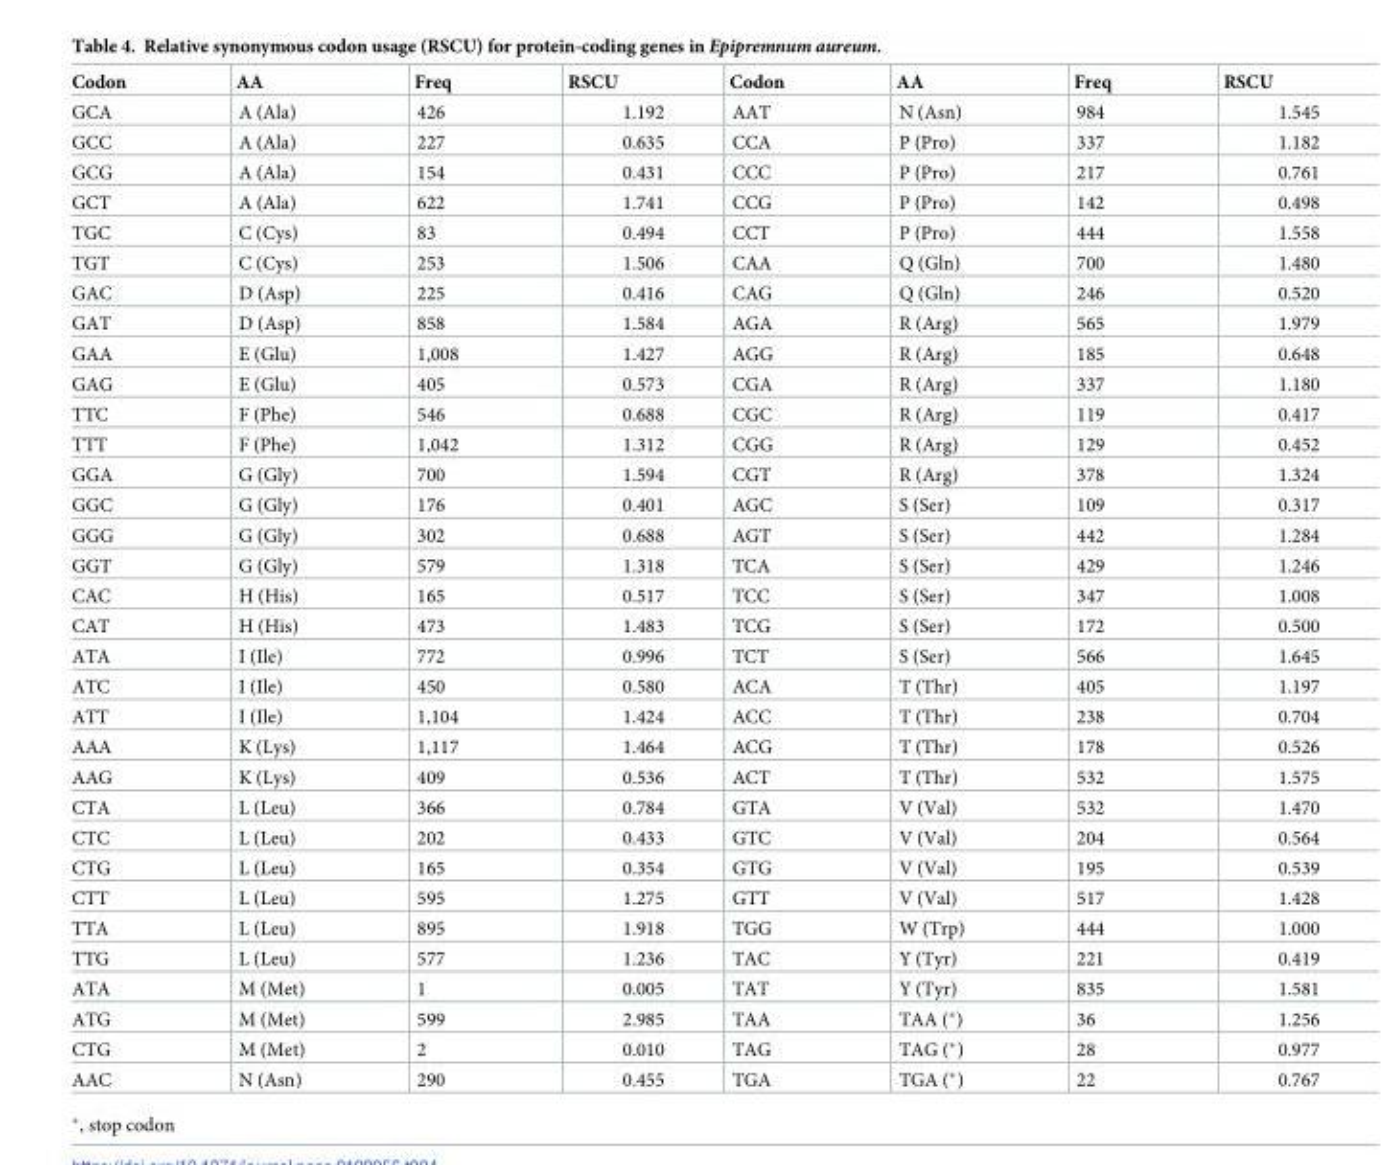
<table><thead><tr><td>Codon</td><td>AA</td><td>Freq</td><td>RSCU</td><td>Codon</td><td>AA</td><td>Freq</td><td>RSCU</td></tr></thead><tbody><tr><td>GCA</td><td>A (Ala)</td><td>426</td><td>1.192</td><td>AAT</td><td>N (Asn)</td><td>984</td><td>1.545</td></tr><tr><td>GCC</td><td>A (Ala)</td><td>227</td><td>0.635</td><td>CCA</td><td>P (Pro)</td><td>337</td><td>1.182</td></tr><tr><td>GCG</td><td>A (Ala)</td><td>154</td><td>0.431</td><td>CCC</td><td>P (Pro)</td><td>217</td><td>0.761</td></tr><tr><td>GCT</td><td>A (Ala)</td><td>622</td><td>1.741</td><td>CCG</td><td>P (Pro)</td><td>142</td><td>0.498</td></tr><tr><td>TGC</td><td>C (Cys)</td><td>83</td><td>0.494</td><td>CCT</td><td>P (Pro)</td><td>444</td><td>1.558</td></tr><tr><td>TGT</td><td>C (Cys)</td><td>253</td><td>1.506</td><td>CAA</td><td>Q (Gln)</td><td>700</td><td>1.480</td></tr><tr><td>GAC</td><td>D (Asp)</td><td>225</td><td>0.416</td><td>CAG</td><td>Q (Gln)</td><td>246</td><td>0.520</td></tr><tr><td>GAT</td><td>D (Asp)</td><td>858</td><td>1.584</td><td>AGA</td><td>R (Arg)</td><td>565</td><td>1.979</td></tr><tr><td>GAA</td><td>E (Glu)</td><td>1,008</td><td>1.427</td><td>AGG</td><td>R (Arg)</td><td>185</td><td>0.648</td></tr><tr><td>GAG</td><td>E (Glu)</td><td>405</td><td>0.573</td><td>CGA</td><td>R (Arg)</td><td>337</td><td>1.180</td></tr><tr><td>TTC</td><td>F (Phe)</td><td>546</td><td>0.688</td><td>CGC</td><td>R (Arg)</td><td>119</td><td>0.417</td></tr><tr><td>TTT</td><td>F (Phe)</td><td>1,042</td><td>1.312</td><td>CGG</td><td>R (Arg)</td><td>129</td><td>0.452</td></tr><tr><td>GGA</td><td>G (Gly)</td><td>700</td><td>1.594</td><td>CGT</td><td>R (Arg)</td><td>378</td><td>1.324</td></tr><tr><td>GGC</td><td>G (Gly)</td><td>176</td><td>0.401</td><td>AGC</td><td>S (Ser)</td><td>109</td><td>0.317</td></tr><tr><td>GGG</td><td>G (Gly)</td><td>302</td><td>0.688</td><td>AGT</td><td>S (Ser)</td><td>442</td><td>1.284</td></tr><tr><td>GGT</td><td>G (Gly)</td><td>579</td><td>1.318</td><td>TCA</td><td>S (Ser)</td><td>429</td><td>1.246</td></tr><tr><td>CAC</td><td>H (His)</td><td>165</td><td>0.517</td><td>TCC</td><td>S (Ser)</td><td>347</td><td>1.008</td></tr><tr><td>CAT</td><td>H (His)</td><td>473</td><td>1.483</td><td>TCG</td><td>S (Ser)</td><td>172</td><td>0.500</td></tr><tr><td>ATA</td><td>I (Ile)</td><td>772</td><td>0.996</td><td>TCT</td><td>S (Ser)</td><td>566</td><td>1.645</td></tr><tr><td>ATC</td><td>I (Ile)</td><td>450</td><td>0.580</td><td>ACA</td><td>T (Thr)</td><td>405</td><td>1.197</td></tr><tr><td>ATT</td><td>I (Ile)</td><td>1,104</td><td>1.424</td><td>ACC</td><td>T (Thr)</td><td>238</td><td>0.704</td></tr><tr><td>AAA</td><td>K (Lys)</td><td>1,117</td><td>1.464</td><td>ACG</td><td>T (Thr)</td><td>178</td><td>0.526</td></tr><tr><td>AAG</td><td>K (Lys)</td><td>409</td><td>0.536</td><td>ACT</td><td>T (Thr)</td><td>532</td><td>1.575</td></tr><tr><td>CTA</td><td>L (Leu)</td><td>366</td><td>0.784</td><td>GTA</td><td>V (Val)</td><td>532</td><td>1.470</td></tr><tr><td>CTC</td><td>L (Leu)</td><td>202</td><td>0.433</td><td>GTC</td><td>V (Val)</td><td>204</td><td>0.564</td></tr><tr><td>CTG</td><td>L (Leu)</td><td>165</td><td>0.354</td><td>GTG</td><td>V (Val)</td><td>195</td><td>0.539</td></tr><tr><td>CTT</td><td>L (Leu)</td><td>595</td><td>1.275</td><td>GTT</td><td>V (Val)</td><td>517</td><td>1.428</td></tr><tr><td>TTA</td><td>L (Leu)</td><td>895</td><td>1.918</td><td>TGG</td><td>W (Trp)</td><td>444</td><td>1.000</td></tr><tr><td>TTG</td><td>L (Leu)</td><td>577</td><td>1.236</td><td>TAC</td><td>Y (Tyr)</td><td>221</td><td>0.419</td></tr><tr><td>ATA</td><td>M (Met)</td><td>1</td><td>0.005</td><td>TAT</td><td>Y (Tyr)</td><td>835</td><td>1.581</td></tr><tr><td>ATG</td><td>M (Met)</td><td>599</td><td>2.985</td><td>TAA</td><td>TAA (*)</td><td>36</td><td>1.256</td></tr><tr><td>CTG</td><td>M (Met)</td><td>2</td><td>0.010</td><td>TAG</td><td>TAG (*)</td><td>28</td><td>0.977</td></tr><tr><td>AAC</td><td>N (Asn)</td><td>290</td><td>0.455</td><td>TGA</td><td>TGA (*)</td><td>22</td><td>0.767</td></tr></tbody></table>